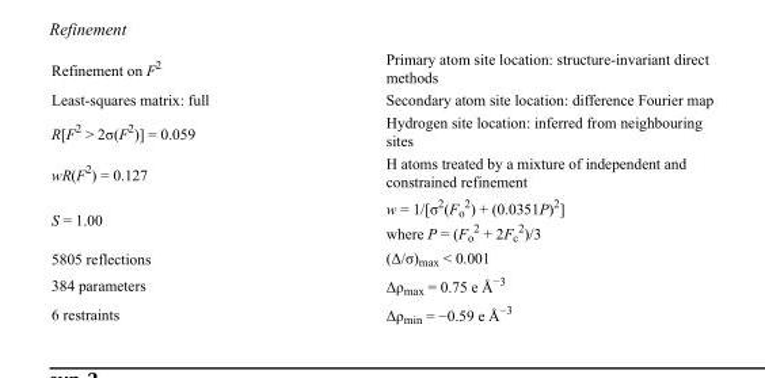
<table><tbody><tr><td>Refinement on F<sup>2</sup></td><td>Primary atom site location: structure-invariant direct methods</td></tr><tr><td>Least-squares matrix: full</td><td>Secondary atom site location: difference Fourier map</td></tr><tr><td>R[F<sup>2</sup> &gt; 2σ(F<sup>2</sup>)] = 0.059</td><td>Hydrogen site location: inferred from neighbouring sites</td></tr><tr><td>wR(F<sup>2</sup>) = 0.127</td><td>H atoms treated by a mixture of independent and constrained refinement</td></tr><tr><td>S = 1.00</td><td>w = 1/[σ<sup>2</sup>(F<sub>o</sub> <sup>2</sup>) + (0.0351P)<sup>2</sup>] where P = (F<sub>o</sub> <sup>2</sup> + 2F<sub>c</sub> <sup>2</sup>)/3</td></tr><tr><td>5805 reflections</td><td>(Δ/σ)<sub>max</sub> &lt; 0.001</td></tr><tr><td>384 parameters</td><td>Δρ<sub>max</sub> = 0.75 e Å<sup>−3</sup></td></tr><tr><td>6 restraints</td><td>Δρ<sub>min</sub> = −0.59 e Å<sup>−3</sup></td></tr></tbody></table>